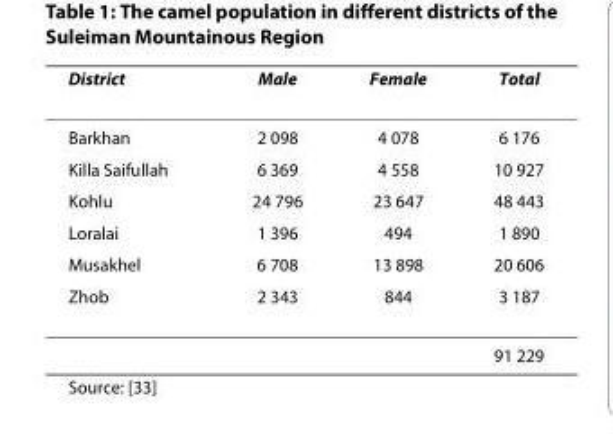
<table><thead><tr><td>District</td><td>Male</td><td>Female</td><td>Total</td></tr></thead><tbody><tr><td>Barkhan</td><td>2 098</td><td>4 078</td><td>6 176</td></tr><tr><td>Killa Saifullah</td><td>6 369</td><td>4 558</td><td>10 927</td></tr><tr><td>Kohlu</td><td>24 796</td><td>23 647</td><td>48 443</td></tr><tr><td>Loralai</td><td>1 396</td><td>494</td><td>1 890</td></tr><tr><td>Musakhel</td><td>6 708</td><td>13 898</td><td>20 606</td></tr><tr><td rowspan="2">Zhob</td><td>2 343</td><td>844</td><td>3 187</td></tr><tr><td></td><td></td><td>91 229</td></tr></tbody></table>